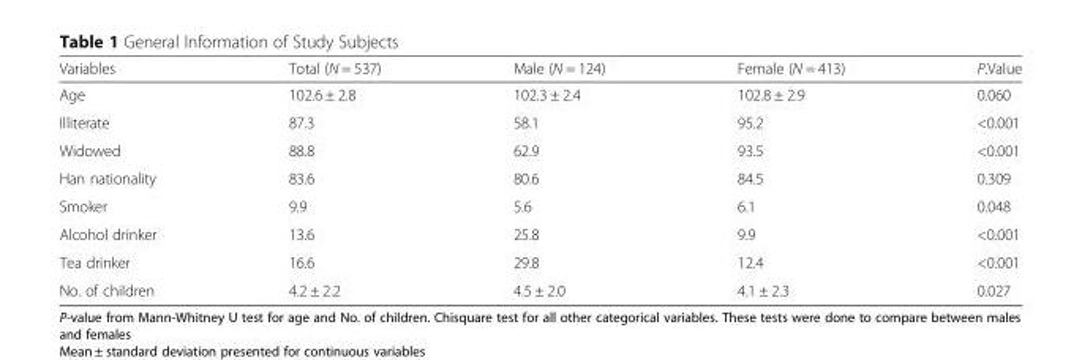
<table><thead><tr><td>Variables</td><td>Total (N = 537)</td><td>Male (N = 124)</td><td>Female (N = 413)</td><td>P.Value</td></tr></thead><tbody><tr><td>Age</td><td>102.6 ± 2.8</td><td>102.3 ± 2.4</td><td>102.8 ± 2.9</td><td>0.060</td></tr><tr><td>Illiterate</td><td>87.3</td><td>58.1</td><td>95.2</td><td>&lt;0.001</td></tr><tr><td>Widowed</td><td>88.8</td><td>62.9</td><td>93.5</td><td>&lt;0.001</td></tr><tr><td>Han nationality</td><td>83.6</td><td>80.6</td><td>84.5</td><td>0.309</td></tr><tr><td>Smoker</td><td>9.9</td><td>5.6</td><td>6.1</td><td>0.048</td></tr><tr><td>Alcohol drinker</td><td>13.6</td><td>25.8</td><td>9.9</td><td>&lt;0.001</td></tr><tr><td>Tea drinker</td><td>16.6</td><td>29.8</td><td>12.4</td><td>&lt;0.001</td></tr><tr><td>No. of children</td><td>4.2 ± 2.2</td><td>4.5 ± 2.0</td><td>4.1 ± 2.3</td><td>0.027</td></tr></tbody></table>